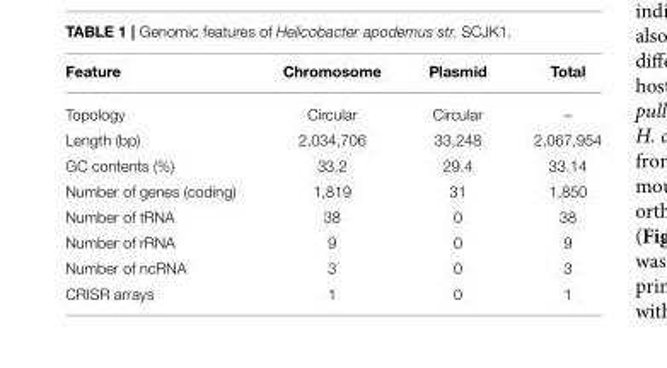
<table><thead><tr><td>Feature</td><td>Chromosome</td><td>Plasmid</td><td>Total</td></tr></thead><tbody><tr><td>Topology</td><td>Circular</td><td>Circular</td><td>–</td></tr><tr><td>Length (bp)</td><td>2,034,706</td><td>33,248</td><td>2,067,954</td></tr><tr><td>GC contents (%)</td><td>33.2</td><td>29.4</td><td>33.14</td></tr><tr><td>Number of genes (coding)</td><td>1,819</td><td>31</td><td>1,850</td></tr><tr><td>Number of tRNA</td><td>38</td><td>0</td><td>38</td></tr><tr><td>Number of rRNA</td><td>9</td><td>0</td><td>9</td></tr><tr><td>Number of ncRNA</td><td>3</td><td>0</td><td>3</td></tr><tr><td>CRISR arrays</td><td>1</td><td>0</td><td>1</td></tr></tbody></table>